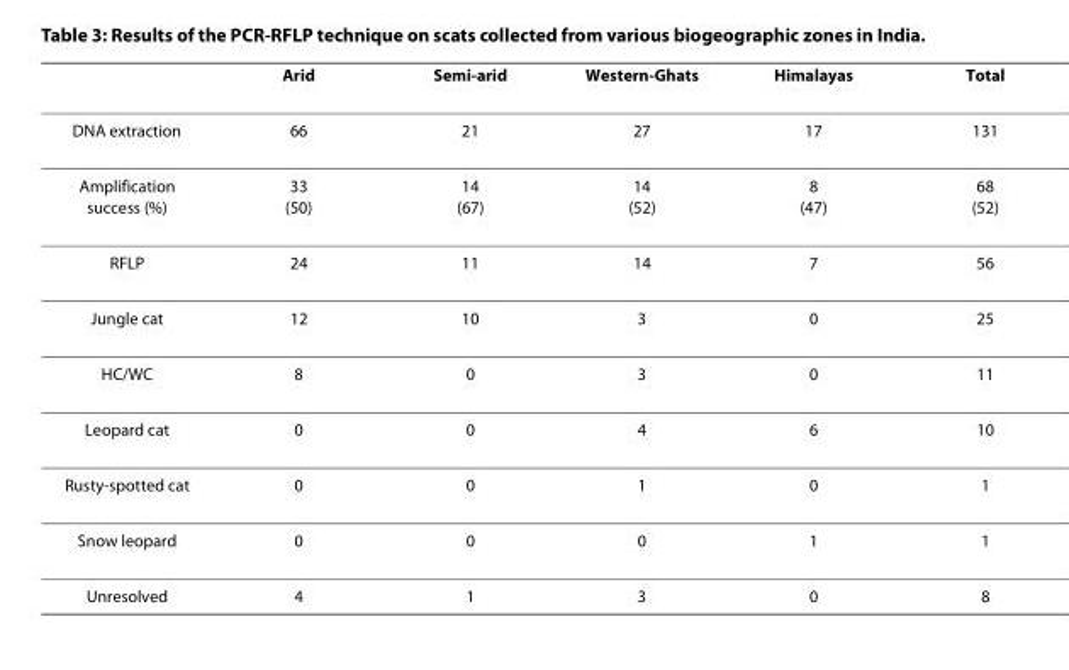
<table><thead><tr><td></td><td>Arid</td><td>Semi-arid</td><td>Western-Ghats</td><td>Himalayas</td><td>Total</td></tr></thead><tbody><tr><td>DNA extraction</td><td>66</td><td>21</td><td>27</td><td>17</td><td>131</td></tr><tr><td>Amplification success (%)</td><td>33 (50)</td><td>14 (67)</td><td>14 (52)</td><td>8 (47)</td><td>68 (52)</td></tr><tr><td>RFLP</td><td>24</td><td>11</td><td>14</td><td>7</td><td>56</td></tr><tr><td>Jungle cat</td><td>12</td><td>10</td><td>3</td><td>0</td><td>25</td></tr><tr><td>HC/WC</td><td>8</td><td>0</td><td>3</td><td>0</td><td>11</td></tr><tr><td>Leopard cat</td><td>0</td><td>0</td><td>4</td><td>6</td><td>10</td></tr><tr><td>Rusty-spotted cat</td><td>0</td><td>0</td><td>1</td><td>0</td><td>1</td></tr><tr><td>Snow leopard</td><td>0</td><td>0</td><td>0</td><td>1</td><td>1</td></tr><tr><td>Unresolved</td><td>4</td><td>1</td><td>3</td><td>0</td><td>8</td></tr></tbody></table>